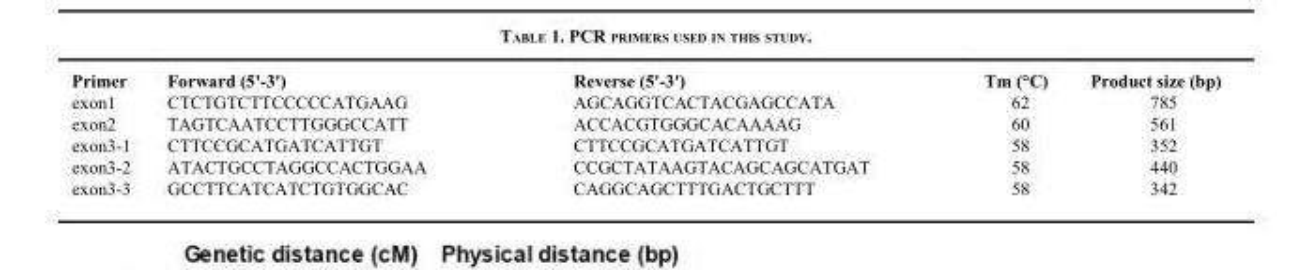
<table><thead><tr><td>Primer</td><td>Forward (5&#x27;-3&#x27;)</td><td>Reverse (5&#x27;-3&#x27;)</td><td>Tm (°C)</td><td>Product size (bp)</td></tr></thead><tbody><tr><td>exon1</td><td>CTCTGTCTTCCCCCATGAAG</td><td>AGCAGGTCACTACGAGCCATA</td><td>62</td><td>785</td></tr><tr><td>exon2</td><td>TAGTCAATCCTTGGGCCATT</td><td>ACCACGTGGGCACAAAAG</td><td>60</td><td>561</td></tr><tr><td>exon3-1</td><td>CTTCCGCATGATCATTGT</td><td>CTTCCGCATGATCATTGT</td><td>58</td><td>352</td></tr><tr><td>exon3-2</td><td>ATACTGCCTAGGCCACTGGAA</td><td>CCGCTATAAGTACAGCAGCATGAT</td><td>58</td><td>440</td></tr><tr><td>exon3-3</td><td>GCCTTCATCATCTGTGGCAC</td><td>CAGGCAGCTTTGACTGCTTT</td><td>58</td><td>342</td></tr></tbody></table>